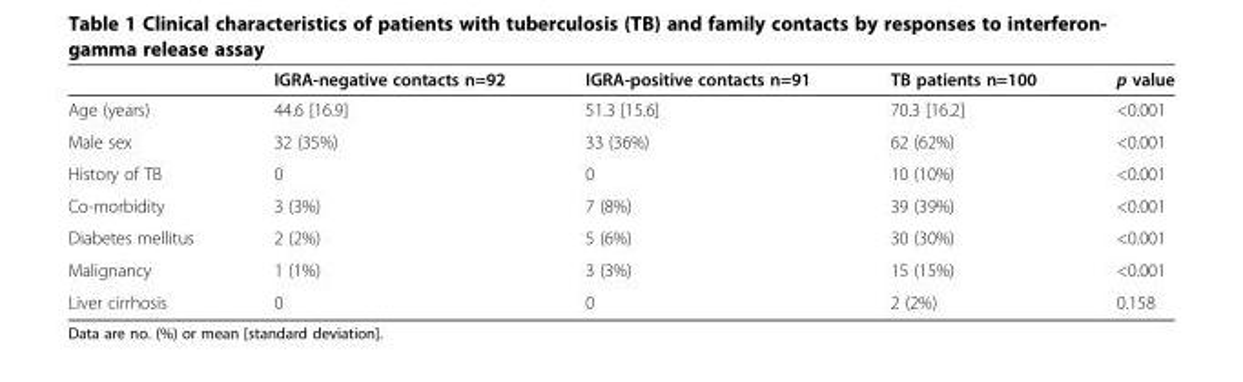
<table><thead><tr><td></td><td>IGRA-negative contacts n=92</td><td>IGRA-positive contacts n=91</td><td>TB patients n=100</td><td>p value</td></tr></thead><tbody><tr><td>Age (years)</td><td>44.6 [16.9]</td><td>51.3 [15.6]</td><td>70.3 [16.2]</td><td>&lt;0.001</td></tr><tr><td>Male sex</td><td>32 (35%)</td><td>33 (36%)</td><td>62 (62%)</td><td>&lt;0.001</td></tr><tr><td>History of TB</td><td>0</td><td>0</td><td>10 (10%)</td><td>&lt;0.001</td></tr><tr><td>Co-morbidity</td><td>3 (3%)</td><td>7 (8%)</td><td>39 (39%)</td><td>&lt;0.001</td></tr><tr><td>Diabetes mellitus</td><td>2 (2%)</td><td>5 (6%)</td><td>30 (30%)</td><td>&lt;0.001</td></tr><tr><td>Malignancy</td><td>1 (1%)</td><td>3 (3%)</td><td>15 (15%)</td><td>&lt;0.001</td></tr><tr><td>Liver cirrhosis</td><td>0</td><td>0</td><td>2 (2%)</td><td>0.158</td></tr></tbody></table>